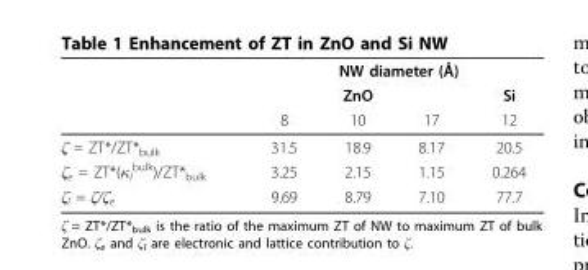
<table><thead><tr><td rowspan="3"></td><td colspan="4">NW diameter (Å)</td></tr><tr><td colspan="3">ZnO</td><td rowspan="2">Si 12</td></tr><tr><td>8</td><td>10</td><td>17</td></tr></thead><tbody><tr><td>ζ = ZT*/ZT*<sub>bulk</sub></td><td>31.5</td><td>18.9</td><td>8.17</td><td>20.5</td></tr><tr><td>ζ<sub>e</sub> = ZT*(κ<sub>l</sub> <sup>bulk</sup>)/ZT*<sub>bulk</sub></td><td>3.25</td><td>2.15</td><td>1.15</td><td>0.264</td></tr><tr><td>ζ<sub>l</sub> = ζ/ζ<sub>e</sub></td><td>9.69</td><td>8.79</td><td>7.10</td><td>77.7</td></tr></tbody></table>